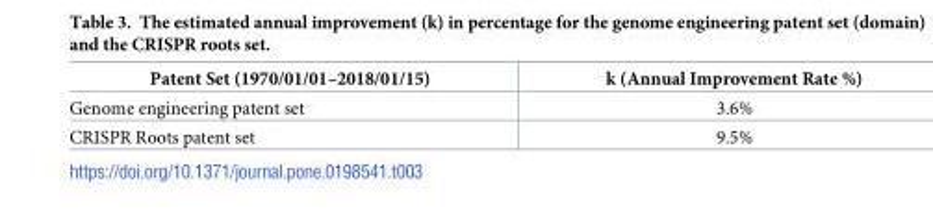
<table><thead><tr><td>Patent Set (1970/01/01–2018/01/15)</td><td>k (Annual Improvement Rate %)</td></tr></thead><tbody><tr><td>Genome engineering patent set</td><td>3.6%</td></tr><tr><td>CRISPR Roots patent set</td><td>9.5%</td></tr></tbody></table>